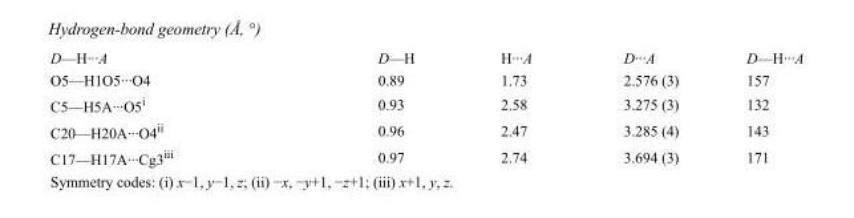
<table><tbody><tr><td>D—H···A</td><td>D—H</td><td>H···A</td><td>D···A</td><td>D—H···A</td></tr><tr><td>O5—H1O5···O4</td><td>0.89</td><td>1.73</td><td>2.576 (3)</td><td>157</td></tr><tr><td>C5—H5A···O5<sup>i</sup></td><td>0.93</td><td>2.58</td><td>3.275 (3)</td><td>132</td></tr><tr><td>C20—H20A···O4<sup>ii</sup></td><td>0.96</td><td>2.47</td><td>3.285 (4)</td><td>143</td></tr><tr><td>C17—H17A···Cg3<sup>iii</sup></td><td>0.97</td><td>2.74</td><td>3.694 (3)</td><td>171</td></tr></tbody></table>